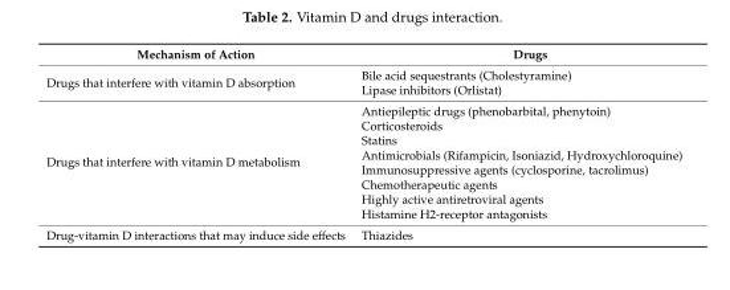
<table><thead><tr><td>Mechanism of Action</td><td>Drugs</td></tr></thead><tbody><tr><td>Drugs that interfere with vitamin D absorption</td><td>Bile acid sequestrants (Cholestyramine) Lipase inhibitors (Orlistat)</td></tr><tr><td rowspan="8">Drugs that interfere with vitamin D metabolism</td><td>Antiepileptic drugs (phenobarbital, phenytoin)</td></tr><tr><td>Corticosteroids</td></tr><tr><td>Statins</td></tr><tr><td>Antimicrobials (Rifampicin, Isoniazid, Hydroxychloroquine)</td></tr><tr><td>Immunosuppressive agents (cyclosporine, tacrolimus)</td></tr><tr><td>Chemotherapeutic agents</td></tr><tr><td>Highly active antiretroviral agents</td></tr><tr><td>Histamine H2-receptor antagonists</td></tr><tr><td>Drug-vitamin D interactions that may induce side effects</td><td>Thiazides</td></tr></tbody></table>